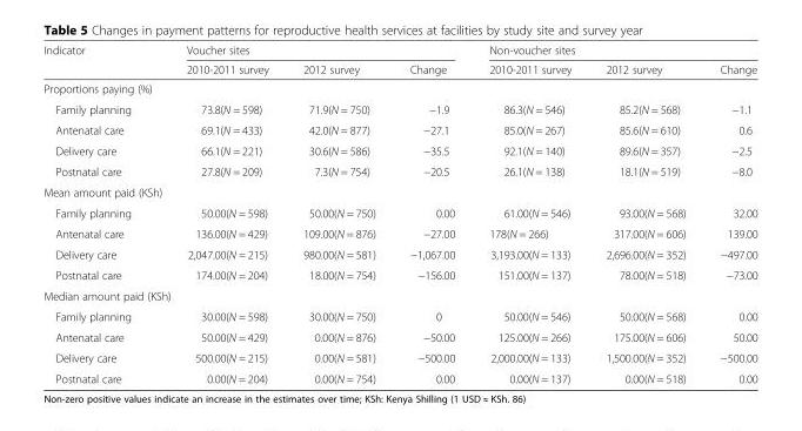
<table><thead><tr><td rowspan="2">Indicator</td><td colspan="3">Voucher sites</td><td colspan="3">Non-voucher sites</td></tr><tr><td>2010-2011 survey</td><td>2012 survey</td><td>Change</td><td>2010-2011 survey</td><td>2012 survey</td><td>Change</td></tr></thead><tbody><tr><td colspan="7">Proportions paying (%)</td></tr><tr><td>Family planning</td><td>73.8(N = 598)</td><td>71.9(N = 750)</td><td>−1.9</td><td>86.3(N = 546)</td><td>85.2(N = 568)</td><td>−1.1</td></tr><tr><td>Antenatal care</td><td>69.1(N = 433)</td><td>42.0(N = 877)</td><td>−27.1</td><td>85.0(N = 267)</td><td>85.6(N = 610)</td><td>0.6</td></tr><tr><td>Delivery care</td><td>66.1(N = 221)</td><td>30.6(N = 586)</td><td>−35.5</td><td>92.1(N = 140)</td><td>89.6(N = 357)</td><td>−2.5</td></tr><tr><td>Postnatal care</td><td>27.8(N = 209)</td><td>7.3(N = 754)</td><td>−20.5</td><td>26.1(N = 138)</td><td>18.1(N = 519)</td><td>−8.0</td></tr><tr><td colspan="7">Mean amount paid (KSh)</td></tr><tr><td>Family planning</td><td>50.00(N = 598)</td><td>50.00(N = 750)</td><td>0.00</td><td>61.00(N = 546)</td><td>93.00(N = 568)</td><td>32.00</td></tr><tr><td>Antenatal care</td><td>136.00(N = 429)</td><td>109.00(N = 876)</td><td>−27.00</td><td>178(N = 266)</td><td>317.00(N = 606)</td><td>139.00</td></tr><tr><td>Delivery care</td><td>2,047.00(N = 215)</td><td>980.00(N = 581)</td><td>−1,067.00</td><td>3,193.00(N = 133)</td><td>2,696.00(N = 352)</td><td>−497.00</td></tr><tr><td>Postnatal care</td><td>174.00(N = 204)</td><td>18.00(N = 754)</td><td>−156.00</td><td>151.00(N = 137)</td><td>78.00(N = 518)</td><td>−73.00</td></tr><tr><td colspan="7">Median amount paid (KSh)</td></tr><tr><td>Family planning</td><td>30.00(N = 598)</td><td>30.00(N = 750)</td><td>0</td><td>50.00(N = 546)</td><td>50.00(N = 568)</td><td>0.00</td></tr><tr><td>Antenatal care</td><td>50.00(N = 429)</td><td>0.00(N = 876)</td><td>−50.00</td><td>125.00(N = 266)</td><td>175.00(N = 606)</td><td>50.00</td></tr><tr><td>Delivery care</td><td>500.00(N = 215)</td><td>0.00(N = 581)</td><td>−500.00</td><td>2,000.00(N = 133)</td><td>1,500.00(N = 352)</td><td>−500.00</td></tr><tr><td>Postnatal care</td><td>0.00(N = 204)</td><td>0.00(N = 754)</td><td>0.00</td><td>0.00(N = 137)</td><td>0.00(N = 518)</td><td>0.00</td></tr></tbody></table>